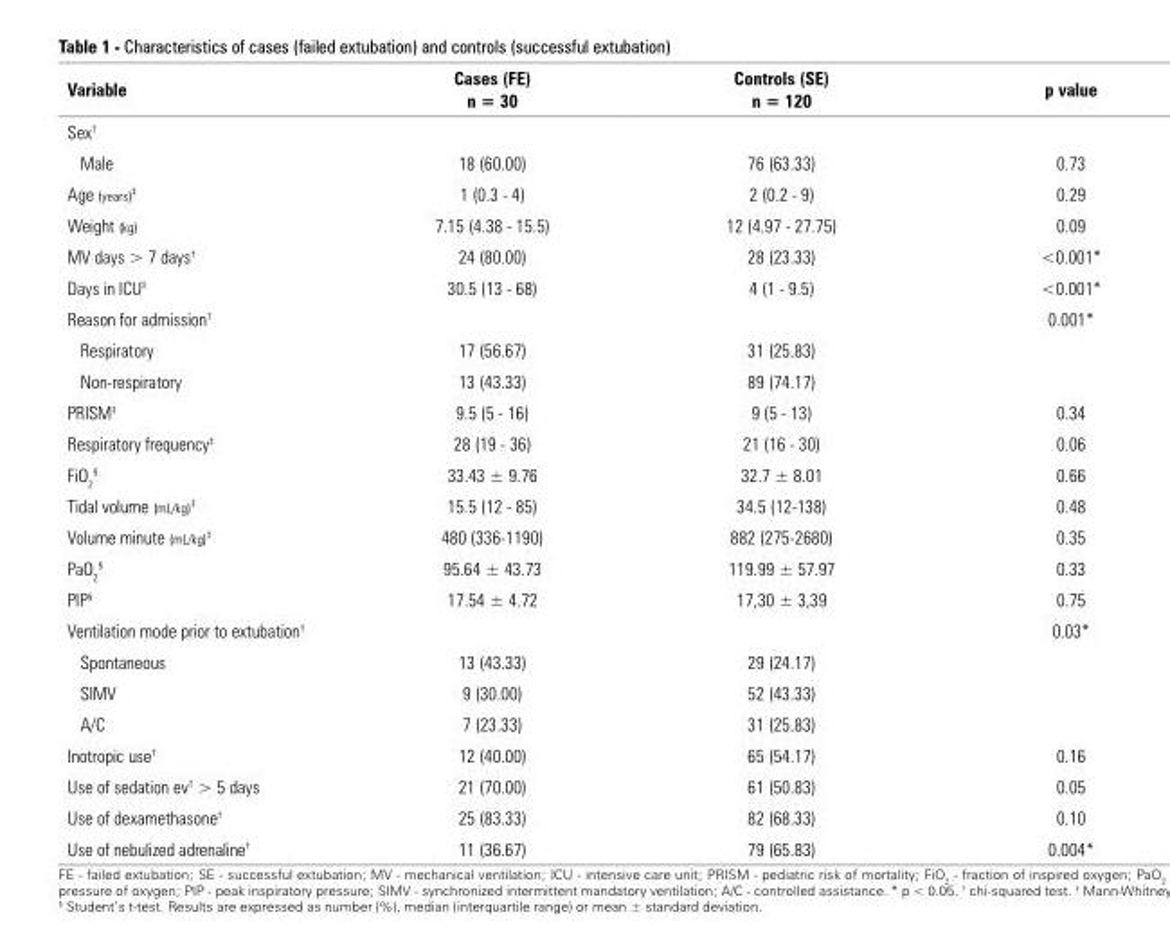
<table><thead><tr><td>Variable</td><td>Cases (FE) n = 30</td><td>Controls (SE) n = 120</td><td>p value</td></tr></thead><tbody><tr><td colspan="4">Sex†</td></tr><tr><td>Male</td><td>18 (60.00)</td><td>76 (63.33)</td><td>0.73</td></tr><tr><td>Age (years)‡</td><td>1 (0.3 - 4)</td><td>2 (0.2 - 9)</td><td>0.29</td></tr><tr><td>Weight (kg)</td><td>7.15 (4.38 - 15.5)</td><td>12 (4.97 - 27.75)</td><td>0.09</td></tr><tr><td>MV days &gt; 7 days†</td><td>24 (80.00)</td><td>28 (23.33)</td><td>&lt;0.001*</td></tr><tr><td>Days in ICU‡</td><td>30.5 (13 - 68)</td><td>4 (1 - 9.5)</td><td>&lt;0.001*</td></tr><tr><td>Reason for admission†</td><td></td><td></td><td>0.001*</td></tr><tr><td>Respiratory</td><td>17 (56.67)</td><td>31 (25.83)</td><td></td></tr><tr><td>Non-respiratory</td><td>13 (43.33)</td><td>89 (74.17)</td><td></td></tr><tr><td>PRISM‡</td><td>9.5 (5 - 16)</td><td>9 (5 - 13)</td><td>0.34</td></tr><tr><td>Respiratory frequency‡</td><td>28 (19 - 36)</td><td>21 (16 - 30)</td><td>0.06</td></tr><tr><td>FiO<sub>2</sub> §</td><td>33.43 ± 9.76</td><td>32.7 ± 8.01</td><td>0.66</td></tr><tr><td>Tidal volume (mL/kg)‡</td><td>15.5 (12 - 85)</td><td>34.5 (12-138)</td><td>0.48</td></tr><tr><td>Volume minute (mL/kg)‡</td><td>480 (336-1190)</td><td>882 (275-2680)</td><td>0.35</td></tr><tr><td>PaO<sub>2</sub> §</td><td>95.64 ± 43.73</td><td>119.99 ± 57.97</td><td>0.33</td></tr><tr><td>PIP§</td><td>17.54 ± 4.72</td><td>17,30 ± 3,39</td><td>0.75</td></tr><tr><td>Ventilation mode prior to extubation†</td><td></td><td></td><td>0.03*</td></tr><tr><td>Spontaneous</td><td>13 (43.33)</td><td>29 (24.17)</td><td></td></tr><tr><td>SIMV</td><td>9 (30.00)</td><td>52 (43.33)</td><td></td></tr><tr><td>A/C</td><td>7 (23.33)</td><td>31 (25.83)</td><td></td></tr><tr><td>Inotropic use†</td><td>12 (40.00)</td><td>65 (54.17)</td><td>0.16</td></tr><tr><td>Use of sedation ev† &gt; 5 days</td><td>21 (70.00)</td><td>61 (50.83)</td><td>0.05</td></tr><tr><td>Use of dexamethasone†</td><td>25 (83.33)</td><td>82 (68.33)</td><td>0.10</td></tr><tr><td>Use of nebulized adrenaline†</td><td>11 (36.67)</td><td>79 (65.83)</td><td>0.004*</td></tr></tbody></table>